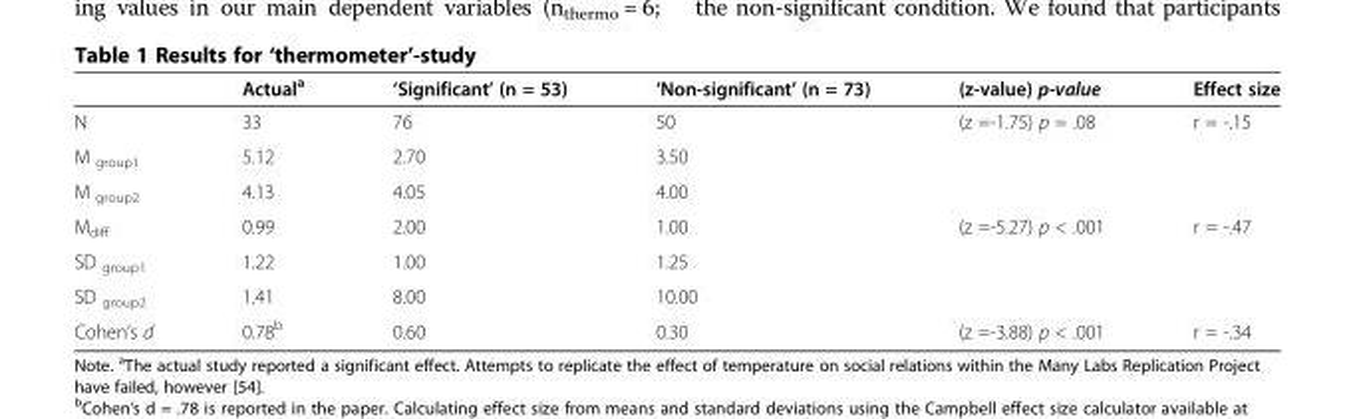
<table><thead><tr><td></td><td>Actual<sup>a</sup></td><td>‘Significant’ (n = 53)</td><td>‘Non-significant’ (n = 73)</td><td>(z-value) p-value</td><td>Effect size</td></tr></thead><tbody><tr><td>N</td><td>33</td><td>76</td><td>50</td><td>(z =-1.75) p = .08</td><td>r = -.15</td></tr><tr><td>M <sub>group1</sub></td><td>5.12</td><td>2.70</td><td>3.50</td><td></td><td></td></tr><tr><td>M <sub>group2</sub></td><td>4.13</td><td>4.05</td><td>4.00</td><td></td><td></td></tr><tr><td>M<sub>diff</sub></td><td>0.99</td><td>2.00</td><td>1.00</td><td>(z =-5.27) p &lt; .001</td><td>r = -.47</td></tr><tr><td>SD <sub>group1</sub></td><td>1.22</td><td>1.00</td><td>1.25</td><td></td><td></td></tr><tr><td>SD <sub>group2</sub></td><td>1.41</td><td>8.00</td><td>10.00</td><td></td><td></td></tr><tr><td>Cohen’s d</td><td>0.78<sup>b</sup></td><td>0.60</td><td>0.30</td><td>(z =-3.88) p &lt; .001</td><td>r = -.34</td></tr></tbody></table>